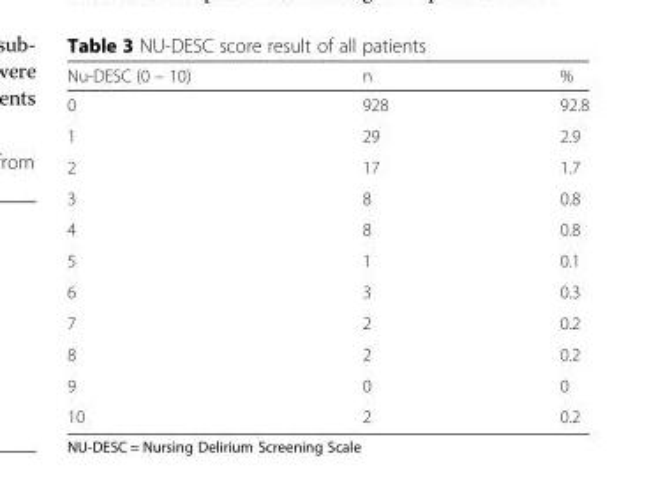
<table><thead><tr><td>Nu-DESC (0 – 10)</td><td>n</td><td>%</td></tr></thead><tbody><tr><td>0</td><td>928</td><td>92.8</td></tr><tr><td>1</td><td>29</td><td>2.9</td></tr><tr><td>2</td><td>17</td><td>1.7</td></tr><tr><td>3</td><td>8</td><td>0.8</td></tr><tr><td>4</td><td>8</td><td>0.8</td></tr><tr><td>5</td><td>1</td><td>0.1</td></tr><tr><td>6</td><td>3</td><td>0.3</td></tr><tr><td>7</td><td>2</td><td>0.2</td></tr><tr><td>8</td><td>2</td><td>0.2</td></tr><tr><td>9</td><td>0</td><td>0</td></tr><tr><td>10</td><td>2</td><td>0.2</td></tr></tbody></table>